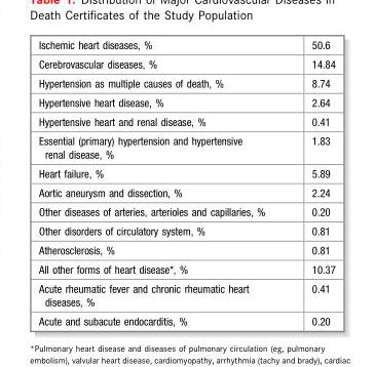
<table><tbody><tr><td>Ischemic heart diseases, %</td><td>50.6</td></tr><tr><td>Cerebrovascular diseases, %</td><td>14.84</td></tr><tr><td>Hypertension as multiple causes of death, %</td><td>8.74</td></tr><tr><td>Hypertensive heart disease, %</td><td>2.64</td></tr><tr><td>Hypertensive heart and renal disease, %</td><td>0.41</td></tr><tr><td>Essential (primary) hypertension and hypertensive renal disease, %</td><td>1.83</td></tr><tr><td>Heart failure, %</td><td>5.89</td></tr><tr><td>Aortic aneurysm and dissection, %</td><td>2.24</td></tr><tr><td>Other diseases of arteries, arterioles and capillaries, %</td><td>0.20</td></tr><tr><td>Other disorders of circulatory system, %</td><td>0.81</td></tr><tr><td>Atherosclerosis, %</td><td>0.81</td></tr><tr><td>All other forms of heart disease*, %</td><td>10.37</td></tr><tr><td>Acute rheumatic fever and chronic rheumatic heart diseases, %</td><td>0.41</td></tr><tr><td>Acute and subacute endocarditis, %</td><td>0.20</td></tr></tbody></table>